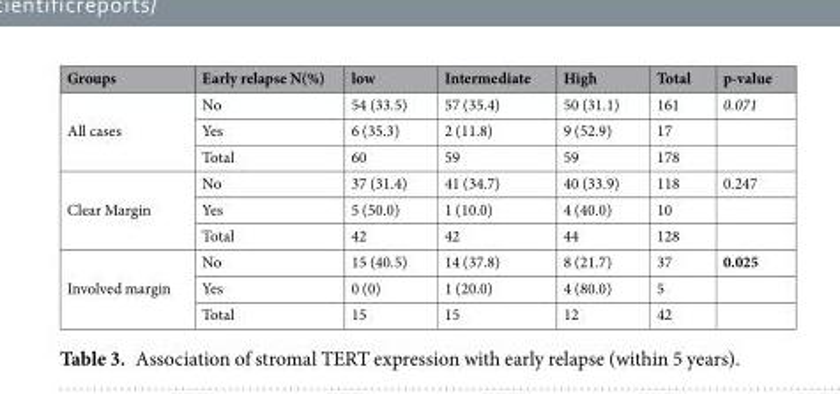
<table><thead><tr><td>Groups</td><td>Early relapse N(%)</td><td>low</td><td>Intermediate</td><td>High</td><td>Total</td><td>p-value</td></tr></thead><tbody><tr><td rowspan="3">All cases</td><td>No</td><td>54 (33.5)</td><td>57 (35.4)</td><td>50 (31.1)</td><td>161</td><td>0.071</td></tr><tr><td>Yes</td><td>6 (35.3)</td><td>2 (11.8)</td><td>9 (52.9)</td><td>17</td><td></td></tr><tr><td>Total</td><td>60</td><td>59</td><td>59</td><td>178</td><td></td></tr><tr><td rowspan="3">Clear Margin</td><td>No</td><td>37 (31.4)</td><td>41 (34.7)</td><td>40 (33.9)</td><td>118</td><td>0.247</td></tr><tr><td>Yes</td><td>5 (50.0)</td><td>1 (10.0)</td><td>4 (40.0)</td><td>10</td><td></td></tr><tr><td>Total</td><td>42</td><td>42</td><td>44</td><td>128</td><td></td></tr><tr><td rowspan="3">Involved margin</td><td>No</td><td>15 (40.5)</td><td>14 (37.8)</td><td>8 (21.7)</td><td>37</td><td>0.025</td></tr><tr><td>Yes</td><td>0 (0)</td><td>1 (20.0)</td><td>4 (80.0)</td><td>5</td><td></td></tr><tr><td>Total</td><td>15</td><td>15</td><td>12</td><td>42</td><td></td></tr></tbody></table>